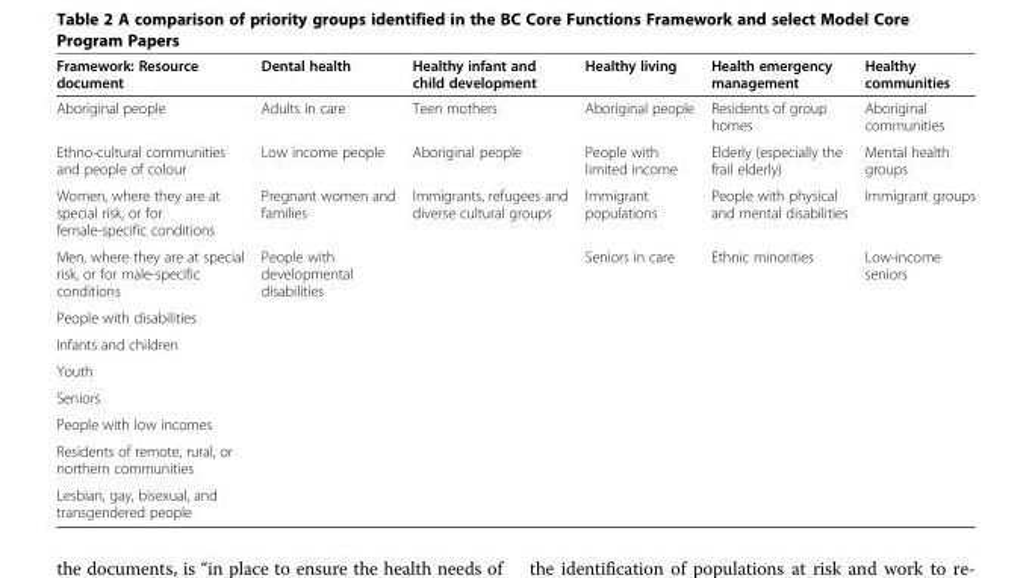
<table><thead><tr><td>Framework: Resource document</td><td>Dental health</td><td>Healthy infant and child development</td><td>Healthy living</td><td>Health emergency management</td><td>Healthy communities</td></tr></thead><tbody><tr><td>Aboriginal people</td><td>Adults in care</td><td>Teen mothers</td><td>Aboriginal people</td><td>Residents of group homes</td><td>Aboriginal communities</td></tr><tr><td>Ethno-cultural communities and people of colour</td><td>Low income people</td><td>Aboriginal people</td><td>People with limited income</td><td>Elderly (especially the frail elderly)</td><td>Mental health groups</td></tr><tr><td>Women, where they are at special risk, or for female-specific conditions</td><td>Pregnant women and families</td><td>Immigrants, refugees and diverse cultural groups</td><td>Immigrant populations</td><td>People with physical and mental disabilities</td><td>Immigrant groups</td></tr><tr><td>Men, where they are at special risk, or for male-specific conditions</td><td>People with developmental disabilities</td><td></td><td>Seniors in care</td><td>Ethnic minorities</td><td>Low-income seniors</td></tr><tr><td colspan="6">People with disabilities</td></tr><tr><td colspan="6">Infants and children</td></tr><tr><td colspan="6">Youth</td></tr><tr><td colspan="6">Seniors</td></tr><tr><td colspan="6">People with low incomes</td></tr><tr><td colspan="6">Residents of remote, rural, or northern communities</td></tr><tr><td>Lesbian, gay, bisexual, and transgendered people</td><td></td><td></td><td></td><td></td><td></td></tr></tbody></table>